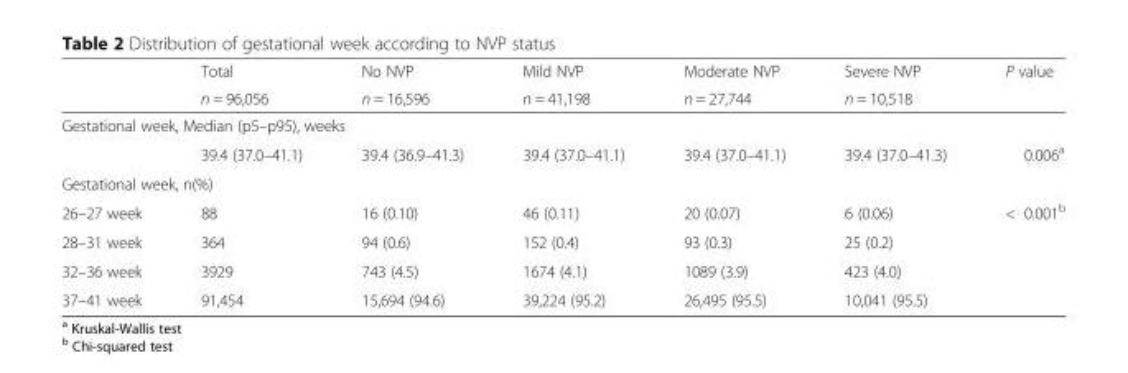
<table><thead><tr><td rowspan="2"></td><td rowspan="2">Total n = 96,056</td><td rowspan="2">No NVP n = 16,596</td><td rowspan="2">Mild NVP n = 41,198</td><td rowspan="2">Moderate NVP n = 27,744</td><td rowspan="2">Severe NVP n = 10,518</td><td rowspan="2">P value</td></tr><tr></tr></thead><tbody><tr><td colspan="7">Gestational week, Median (p5–p95), weeks</td></tr><tr><td></td><td>39.4 (37.0–41.1)</td><td>39.4 (36.9–41.3)</td><td>39.4 (37.0–41.1)</td><td>39.4 (37.0–41.1)</td><td>39.4 (37.0–41.3)</td><td>0.006<sup>a</sup></td></tr><tr><td colspan="7">Gestational week, n(%)</td></tr><tr><td>26–27 week</td><td>88</td><td>16 (0.10)</td><td>46 (0.11)</td><td>20 (0.07)</td><td>6 (0.06)</td><td>&lt; 0.001<sup>b</sup></td></tr><tr><td>28–31 week</td><td>364</td><td>94 (0.6)</td><td>152 (0.4)</td><td>93 (0.3)</td><td>25 (0.2)</td><td></td></tr><tr><td>32–36 week</td><td>3929</td><td>743 (4.5)</td><td>1674 (4.1)</td><td>1089 (3.9)</td><td>423 (4.0)</td><td></td></tr><tr><td>37–41 week</td><td>91,454</td><td>15,694 (94.6)</td><td>39,224 (95.2)</td><td>26,495 (95.5)</td><td>10,041 (95.5)</td><td></td></tr></tbody></table>